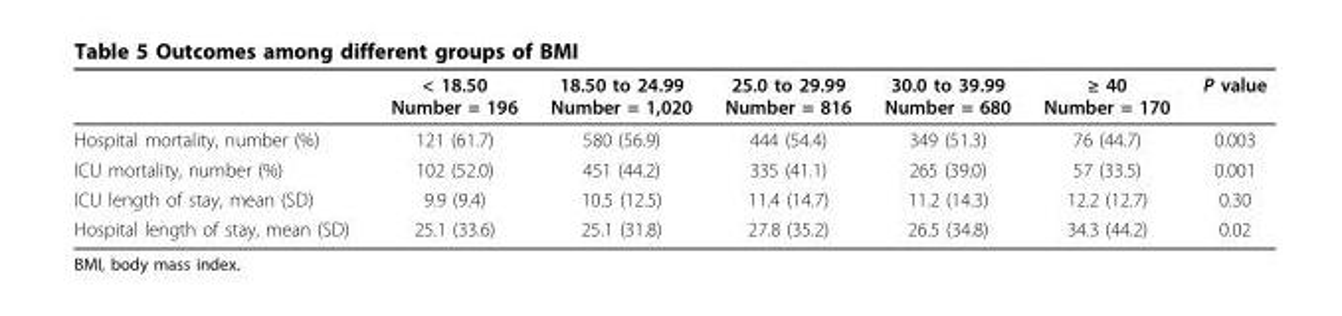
<table><thead><tr><td></td><td>&lt; 18.50 Number = 196</td><td>18.50 to 24.99 Number = 1,020</td><td>25.0 to 29.99 Number = 816</td><td>30.0 to 39.99 Number = 680</td><td>≥ 40 Number = 170</td><td>P value</td></tr></thead><tbody><tr><td>Hospital mortality, number (%)</td><td>121 (61.7)</td><td>580 (56.9)</td><td>444 (54.4)</td><td>349 (51.3)</td><td>76 (44.7)</td><td>0.003</td></tr><tr><td>ICU mortality, number (%)</td><td>102 (52.0)</td><td>451 (44.2)</td><td>335 (41.1)</td><td>265 (39.0)</td><td>57 (33.5)</td><td>0.001</td></tr><tr><td>ICU length of stay, mean (SD)</td><td>9.9 (9.4)</td><td>10.5 (12.5)</td><td>11.4 (14.7)</td><td>11.2 (14.3)</td><td>12.2 (12.7)</td><td>0.30</td></tr><tr><td>Hospital length of stay, mean (SD)</td><td>25.1 (33.6)</td><td>25.1 (31.8)</td><td>27.8 (35.2)</td><td>26.5 (34.8)</td><td>34.3 (44.2)</td><td>0.02</td></tr></tbody></table>